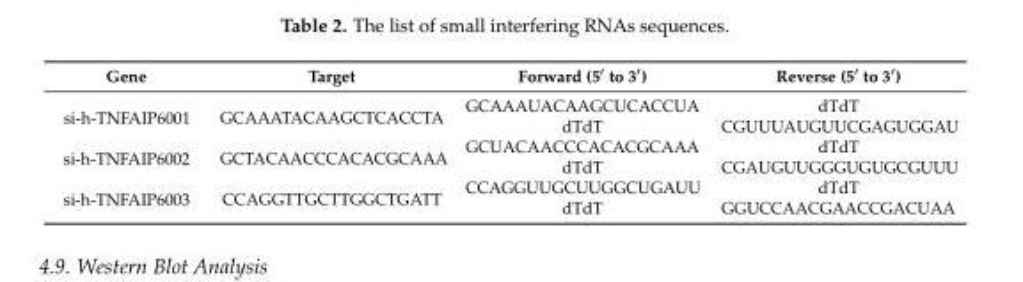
<table><thead><tr><td>Gene</td><td>Target</td><td>Forward (5′ to 3′)</td><td>Reverse (5′ to 3′)</td></tr></thead><tbody><tr><td rowspan="2">si-h-TNFAIP6001</td><td rowspan="2">GCAAATACAAGCTCACCTA</td><td>GCAAAUACAAGCUCACCUA</td><td>dTdT</td></tr><tr><td>dTdT</td><td>CGUUUAUGUUCGAGUGGAU</td></tr><tr><td rowspan="2">si-h-TNFAIP6002</td><td rowspan="2">GCTACAACCCACACGCAAA</td><td>GCUACAACCCACACGCAAA</td><td>dTdT</td></tr><tr><td>dTdT</td><td>CGAUGUUGGGUGUGCGUUU</td></tr><tr><td rowspan="2">si-h-TNFAIP6003</td><td rowspan="2">CCAGGTTGCTTGGCTGATT</td><td>CCAGGUUGCUUGGCUGAUU</td><td>dTdT</td></tr><tr><td>dTdT</td><td>GGUCCAACGAACCGACUAA</td></tr></tbody></table>